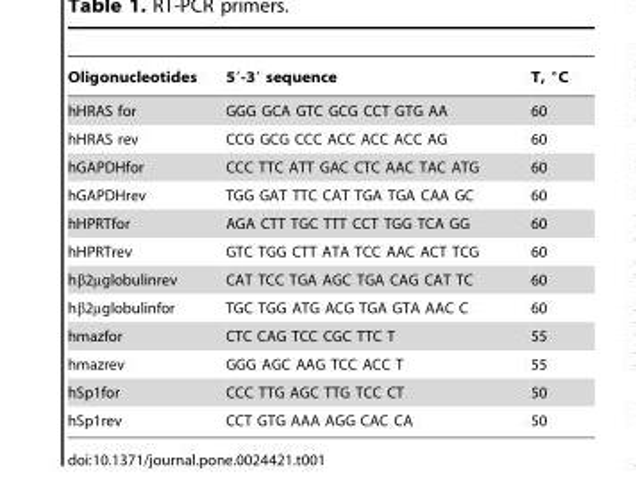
<table><thead><tr><td>Oligonucleotides</td><td>5′-3′ sequence</td><td>T, °C</td></tr></thead><tbody><tr><td>hHRAS for</td><td>GGG GCA GTC GCG CCT GTG AA</td><td>60</td></tr><tr><td>hHRAS rev</td><td>CCG GCG CCC ACC ACC ACC AG</td><td>60</td></tr><tr><td>hGAPDHfor</td><td>CCC TTC ATT GAC CTC AAC TAC ATG</td><td>60</td></tr><tr><td>hGAPDHrev</td><td>TGG GAT TTC CAT TGA TGA CAA GC</td><td>60</td></tr><tr><td>hHPRTfor</td><td>AGA CTT TGC TTT CCT TGG TCA GG</td><td>60</td></tr><tr><td>hHPRTrev</td><td>GTC TGG CTT ATA TCC AAC ACT TCG</td><td>60</td></tr><tr><td>hβ2µglobulinrev</td><td>CAT TCC TGA AGC TGA CAG CAT TC</td><td>60</td></tr><tr><td>hβ2µglobulinfor</td><td>TGC TGG ATG ACG TGA GTA AAC C</td><td>60</td></tr><tr><td>hmazfor</td><td>CTC CAG TCC CGC TTC T</td><td>55</td></tr><tr><td>hmazrev</td><td>GGG AGC AAG TCC ACC T</td><td>55</td></tr><tr><td>hSp1for</td><td>CCC TTG AGC TTG TCC CT</td><td>50</td></tr><tr><td>hSp1rev</td><td>CCT GTG AAA AGG CAC CA</td><td>50</td></tr></tbody></table>